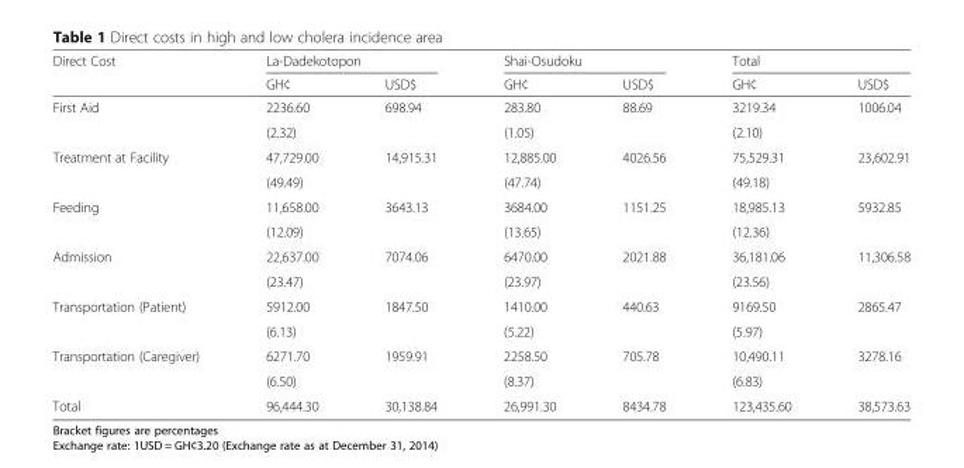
<table><thead><tr><td rowspan="2">Direct Cost</td><td colspan="2">La-Dadekotopon</td><td colspan="2">Shai-Osudoku</td><td colspan="2">Total</td></tr><tr><td>GH¢</td><td>USD$</td><td>GH¢</td><td>USD$</td><td>GH¢</td><td>USD$</td></tr></thead><tbody><tr><td rowspan="2">First Aid</td><td>2236.60</td><td>698.94</td><td>283.80</td><td>88.69</td><td>3219.34</td><td>1006.04</td></tr><tr><td>(2.32)</td><td></td><td>(1.05)</td><td></td><td>(2.10)</td><td></td></tr><tr><td rowspan="2">Treatment at Facility</td><td>47,729.00</td><td>14,915.31</td><td>12,885.00</td><td>4026.56</td><td>75,529.31</td><td>23,602.91</td></tr><tr><td>(49.49)</td><td></td><td>(47.74)</td><td></td><td>(49.18)</td><td></td></tr><tr><td rowspan="2">Feeding</td><td>11,658.00</td><td>3643.13</td><td>3684.00</td><td>1151.25</td><td>18,985.13</td><td>5932.85</td></tr><tr><td>(12.09)</td><td></td><td>(13.65)</td><td></td><td>(12.36)</td><td></td></tr><tr><td rowspan="2">Admission</td><td>22,637.00</td><td>7074.06</td><td>6470.00</td><td>2021.88</td><td>36,181.06</td><td>11,306.58</td></tr><tr><td>(23.47)</td><td></td><td>(23.97)</td><td></td><td>(23.56)</td><td></td></tr><tr><td rowspan="2">Transportation (Patient)</td><td>5912.00</td><td>1847.50</td><td>1410.00</td><td>440.63</td><td>9169.50</td><td>2865.47</td></tr><tr><td>(6.13)</td><td></td><td>(5.22)</td><td></td><td>(5.97)</td><td></td></tr><tr><td rowspan="2">Transportation (Caregiver)</td><td>6271.70</td><td>1959.91</td><td>2258.50</td><td>705.78</td><td>10,490.11</td><td>3278.16</td></tr><tr><td>(6.50)</td><td></td><td>(8.37)</td><td></td><td>(6.83)</td><td></td></tr><tr><td>Total</td><td>96,444.30</td><td>30,138.84</td><td>26,991.30</td><td>8434.78</td><td>123,435.60</td><td>38,573.63</td></tr></tbody></table>